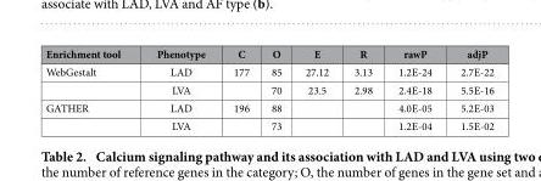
<table><thead><tr><td>Enrichment tool</td><td>Phenotype</td><td>C</td><td>O</td><td>E</td><td>R</td><td>rawP</td><td>adjP</td></tr></thead><tbody><tr><td rowspan="2">WebGestalt</td><td>LAD</td><td>177</td><td>85</td><td>27.12</td><td>3.13</td><td>1.2E-24</td><td>2.7E-22</td></tr><tr><td>LVA</td><td></td><td>70</td><td>23.5</td><td>2.98</td><td>2.4E-18</td><td>5.5E-16</td></tr><tr><td rowspan="2">GATHER</td><td>LAD</td><td>196</td><td>88</td><td></td><td></td><td>4.0E-05</td><td>5.2E-03</td></tr><tr><td>LVA</td><td></td><td>73</td><td></td><td></td><td>1.2E-04</td><td>1.5E-02</td></tr></tbody></table>